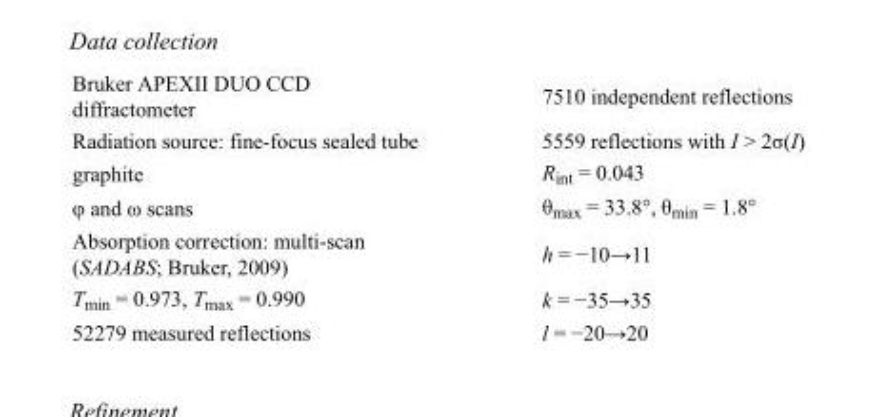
<table><tbody><tr><td>Bruker APEXII DUO CCD diffractometer</td><td>7510 independent reflections</td></tr><tr><td>Radiation source: fine-focus sealed tube</td><td>5559 reflections with I &gt; 2σ(I)</td></tr><tr><td>graphite</td><td>R<sub>int</sub> = 0.043</td></tr><tr><td>φ and ω scans</td><td>θ<sub>max</sub> = 33.8°, θ<sub>min</sub> = 1.8°</td></tr><tr><td>Absorption correction: multi-scan (SADABS; Bruker, 2009)</td><td>h = −10→11</td></tr><tr><td>T<sub>min</sub> = 0.973, T<sub>max</sub> = 0.990</td><td>k = −35→35</td></tr><tr><td>52279 measured reflections</td><td>l = −20→20</td></tr></tbody></table>